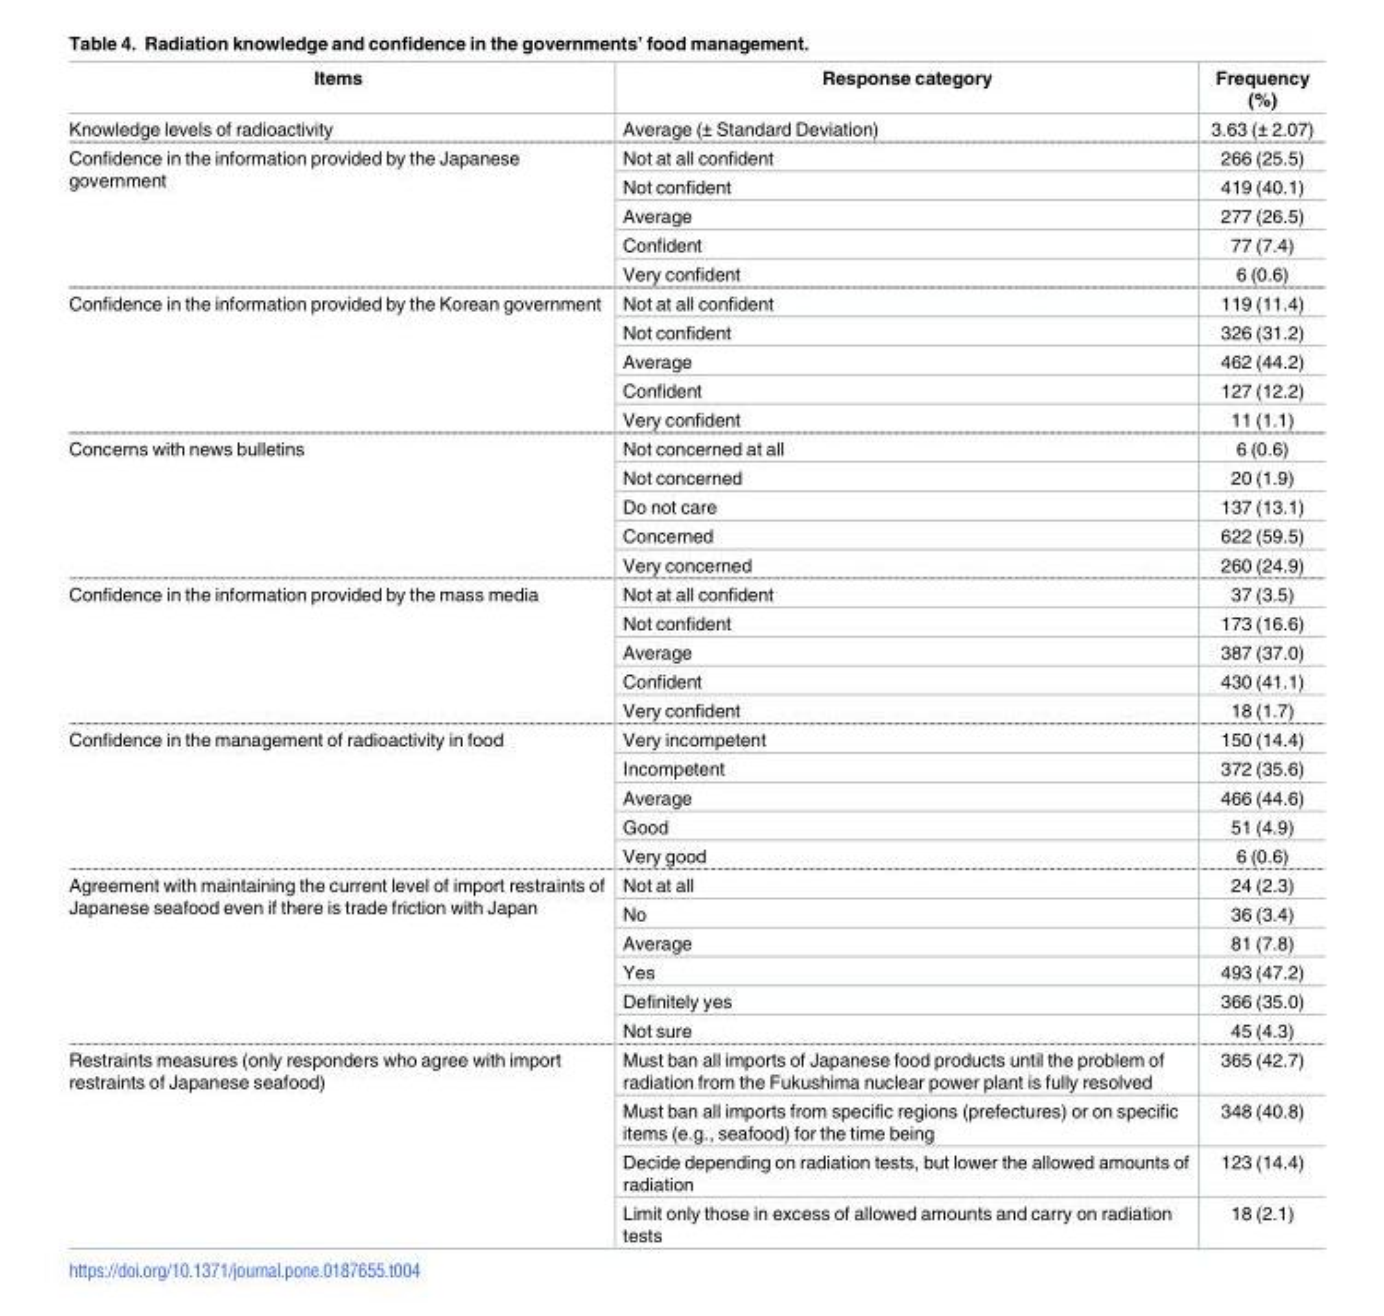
<table><thead><tr><td>Items</td><td>Response category</td><td>Frequency (%)</td></tr></thead><tbody><tr><td>Knowledge levels of radioactivity</td><td>Average (± Standard Deviation)</td><td>3.63 (± 2.07)</td></tr><tr><td rowspan="5">Confidence in the information provided by the Japanese government</td><td>Not at all confident</td><td>266 (25.5)</td></tr><tr><td>Not confident</td><td>419 (40.1)</td></tr><tr><td>Average</td><td>277 (26.5)</td></tr><tr><td>Confident</td><td>77 (7.4)</td></tr><tr><td>Very confident</td><td>6 (0.6)</td></tr><tr><td rowspan="5">Confidence in the information provided by the Korean government</td><td>Not at all confident</td><td>119 (11.4)</td></tr><tr><td>Not confident</td><td>326 (31.2)</td></tr><tr><td>Average</td><td>462 (44.2)</td></tr><tr><td>Confident</td><td>127 (12.2)</td></tr><tr><td>Very confident</td><td>11 (1.1)</td></tr><tr><td rowspan="5">Concerns with news bulletins</td><td>Not concerned at all</td><td>6 (0.6)</td></tr><tr><td>Not concerned</td><td>20 (1.9)</td></tr><tr><td>Do not care</td><td>137 (13.1)</td></tr><tr><td>Concerned</td><td>622 (59.5)</td></tr><tr><td>Very concerned</td><td>260 (24.9)</td></tr><tr><td rowspan="5">Confidence in the information provided by the mass media</td><td>Not at all confident</td><td>37 (3.5)</td></tr><tr><td>Not confident</td><td>173 (16.6)</td></tr><tr><td>Average</td><td>387 (37.0)</td></tr><tr><td>Confident</td><td>430 (41.1)</td></tr><tr><td>Very confident</td><td>18 (1.7)</td></tr><tr><td rowspan="5">Confidence in the management of radioactivity in food</td><td>Very incompetent</td><td>150 (14.4)</td></tr><tr><td>Incompetent</td><td>372 (35.6)</td></tr><tr><td>Average</td><td>466 (44.6)</td></tr><tr><td>Good</td><td>51 (4.9)</td></tr><tr><td>Very good</td><td>6 (0.6)</td></tr><tr><td rowspan="6">Agreement with maintaining the current level of import restraints of Japanese seafood even if there is trade friction with Japan</td><td>Not at all</td><td>24 (2.3)</td></tr><tr><td>No</td><td>36 (3.4)</td></tr><tr><td>Average</td><td>81 (7.8)</td></tr><tr><td>Yes</td><td>493 (47.2)</td></tr><tr><td>Definitely yes</td><td>366 (35.0)</td></tr><tr><td>Not sure</td><td>45 (4.3)</td></tr><tr><td rowspan="4">Restraints measures (only responders who agree with import restraints of Japanese seafood)</td><td>Must ban all imports of Japanese food products until the problem of radiation from the Fukushima nuclear power plant is fully resolved</td><td>365 (42.7)</td></tr><tr><td>Must ban all imports from specific regions (prefectures) or on specific items (e.g., seafood) for the time being</td><td>348 (40.8)</td></tr><tr><td>Decide depending on radiation tests, but lower the allowed amounts of radiation</td><td>123 (14.4)</td></tr><tr><td>Limit only those in excess of allowed amounts and carry on radiation tests</td><td>18 (2.1)</td></tr></tbody></table>